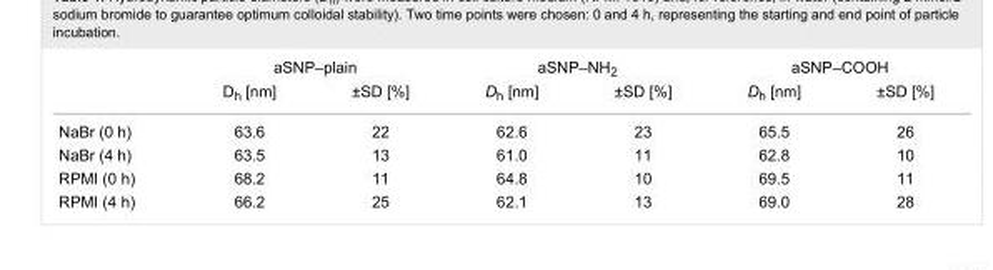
<table><thead><tr><td rowspan="2"></td><td colspan="2">aSNP–plain</td><td colspan="2">aSNP–NH<sub>2</sub></td><td colspan="2">aSNP–COOH</td></tr><tr><td>D<sub>h</sub> [nm]</td><td>±SD [%]</td><td>D<sub>h</sub> [nm]</td><td>±SD [%]</td><td>D<sub>h</sub> [nm]</td><td>±SD [%]</td></tr></thead><tbody><tr><td>NaBr (0 h)</td><td>63.6</td><td>22</td><td>62.6</td><td>23</td><td>65.5</td><td>26</td></tr><tr><td>NaBr (4 h)</td><td>63.5</td><td>13</td><td>61.0</td><td>11</td><td>62.8</td><td>10</td></tr><tr><td>RPMI (0 h)</td><td>68.2</td><td>11</td><td>64.8</td><td>10</td><td>69.5</td><td>11</td></tr><tr><td>RPMI (4 h)</td><td>66.2</td><td>25</td><td>62.1</td><td>13</td><td>69.0</td><td>28</td></tr></tbody></table>